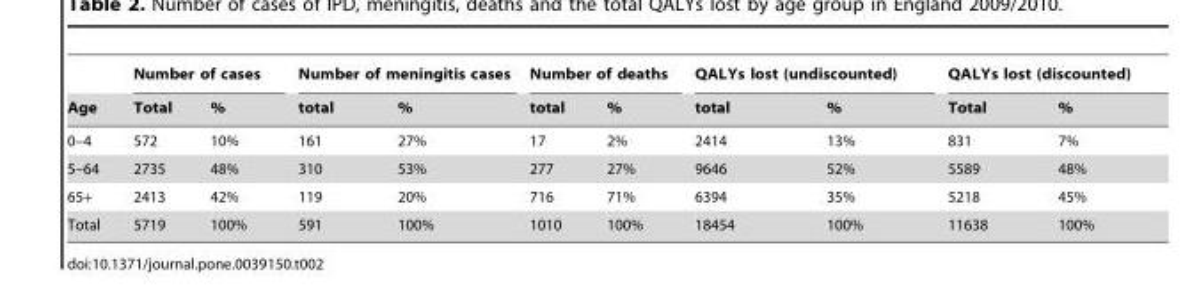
<table><thead><tr><td rowspan="2">Age</td><td colspan="2">Number of cases</td><td colspan="2">Number of meningitis cases</td><td colspan="2">Number of deaths</td><td colspan="2">QALYs lost (undiscounted)</td><td colspan="2">QALYs lost (discounted)</td></tr><tr><td>Total</td><td>%</td><td>total</td><td>%</td><td>total</td><td>%</td><td>total</td><td>%</td><td>Total</td><td>%</td></tr></thead><tbody><tr><td>0–4</td><td>572</td><td>10%</td><td>161</td><td>27%</td><td>17</td><td>2%</td><td>2414</td><td>13%</td><td>831</td><td>7%</td></tr><tr><td>5–64</td><td>2735</td><td>48%</td><td>310</td><td>53%</td><td>277</td><td>27%</td><td>9646</td><td>52%</td><td>5589</td><td>48%</td></tr><tr><td>65+</td><td>2413</td><td>42%</td><td>119</td><td>20%</td><td>716</td><td>71%</td><td>6394</td><td>35%</td><td>5218</td><td>45%</td></tr><tr><td>Total</td><td>5719</td><td>100%</td><td>591</td><td>100%</td><td>1010</td><td>100%</td><td>18454</td><td>100%</td><td>11638</td><td>100%</td></tr></tbody></table>